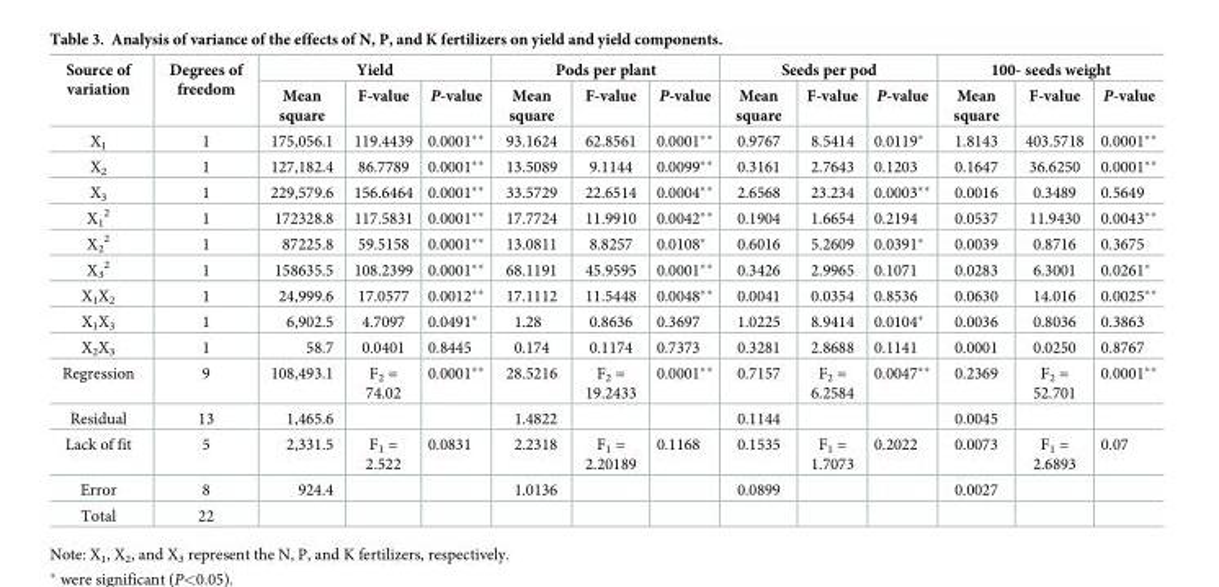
<table><thead><tr><td rowspan="2">Source of variation</td><td rowspan="2">Degrees of freedom</td><td colspan="3">Yield</td><td colspan="3">Pods per plant</td><td colspan="3">Seeds per pod</td><td colspan="3">100- seeds weight</td></tr><tr><td>Mean square</td><td>F-value</td><td>P-value</td><td>Mean square</td><td>F-value</td><td>P-value</td><td>Mean square</td><td>F-value</td><td>P-value</td><td>Mean square</td><td>F-value</td><td>P-value</td></tr></thead><tbody><tr><td>X<sub>1</sub></td><td>1</td><td>175,056.1</td><td>119.4439</td><td>0.0001**</td><td>93.1624</td><td>62.8561</td><td>0.0001**</td><td>0.9767</td><td>8.5414</td><td>0.0119*</td><td>1.8143</td><td>403.5718</td><td>0.0001**</td></tr><tr><td>X<sub>2</sub></td><td>1</td><td>127,182.4</td><td>86.7789</td><td>0.0001**</td><td>13.5089</td><td>9.1144</td><td>0.0099**</td><td>0.3161</td><td>2.7643</td><td>0.1203</td><td>0.1647</td><td>36.6250</td><td>0.0001**</td></tr><tr><td>X<sub>3</sub></td><td>1</td><td>229,579.6</td><td>156.6464</td><td>0.0001**</td><td>33.5729</td><td>22.6514</td><td>0.0004**</td><td>2.6568</td><td>23.234</td><td>0.0003**</td><td>0.0016</td><td>0.3489</td><td>0.5649</td></tr><tr><td>X<sub>1</sub> <sup>2</sup></td><td>1</td><td>172328.8</td><td>117.5831</td><td>0.0001**</td><td>17.7724</td><td>11.9910</td><td>0.0042**</td><td>0.1904</td><td>1.6654</td><td>0.2194</td><td>0.0537</td><td>11.9430</td><td>0.0043**</td></tr><tr><td>X<sub>2</sub> <sup>2</sup></td><td>1</td><td>87225.8</td><td>59.5158</td><td>0.0001**</td><td>13.0811</td><td>8.8257</td><td>0.0108*</td><td>0.6016</td><td>5.2609</td><td>0.0391*</td><td>0.0039</td><td>0.8716</td><td>0.3675</td></tr><tr><td>X<sub>3</sub> <sup>2</sup></td><td>1</td><td>158635.5</td><td>108.2399</td><td>0.0001**</td><td>68.1191</td><td>45.9595</td><td>0.0001**</td><td>0.3426</td><td>2.9965</td><td>0.1071</td><td>0.0283</td><td>6.3001</td><td>0.0261*</td></tr><tr><td>X<sub>1</sub>X<sub>2</sub></td><td>1</td><td>24,999.6</td><td>17.0577</td><td>0.0012**</td><td>17.1112</td><td>11.5448</td><td>0.0048**</td><td>0.0041</td><td>0.0354</td><td>0.8536</td><td>0.0630</td><td>14.016</td><td>0.0025**</td></tr><tr><td>X<sub>1</sub>X<sub>3</sub></td><td>1</td><td>6,902.5</td><td>4.7097</td><td>0.0491*</td><td>1.28</td><td>0.8636</td><td>0.3697</td><td>1.0225</td><td>8.9414</td><td>0.0104*</td><td>0.0036</td><td>0.8036</td><td>0.3863</td></tr><tr><td>X<sub>2</sub>X<sub>3</sub></td><td>1</td><td>58.7</td><td>0.0401</td><td>0.8445</td><td>0.174</td><td>0.1174</td><td>0.7373</td><td>0.3281</td><td>2.8688</td><td>0.1141</td><td>0.0001</td><td>0.0250</td><td>0.8767</td></tr><tr><td>Regression</td><td>9</td><td>108,493.1</td><td>F<sub>2</sub> = 74.02</td><td>0.0001**</td><td>28.5216</td><td>F<sub>2</sub> = 19.2433</td><td>0.0001**</td><td>0.7157</td><td>F<sub>2</sub> = 6.2584</td><td>0.0047**</td><td>0.2369</td><td>F<sub>2</sub> = 52.701</td><td>0.0001**</td></tr><tr><td>Residual</td><td>13</td><td>1,465.6</td><td></td><td></td><td>1.4822</td><td></td><td></td><td>0.1144</td><td></td><td></td><td>0.0045</td><td></td><td></td></tr><tr><td>Lack of fit</td><td>5</td><td>2,331.5</td><td>F<sub>1</sub> = 2.522</td><td>0.0831</td><td>2.2318</td><td>F<sub>1</sub> = 2.20189</td><td>0.1168</td><td>0.1535</td><td>F<sub>1</sub> = 1.7073</td><td>0.2022</td><td>0.0073</td><td>F<sub>1</sub> = 2.6893</td><td>0.07</td></tr><tr><td>Error</td><td>8</td><td>924.4</td><td></td><td></td><td>1.0136</td><td></td><td></td><td>0.0899</td><td></td><td></td><td>0.0027</td><td></td><td></td></tr><tr><td>Total</td><td>22</td><td></td><td></td><td></td><td></td><td></td><td></td><td></td><td></td><td></td><td></td><td></td><td></td></tr></tbody></table>